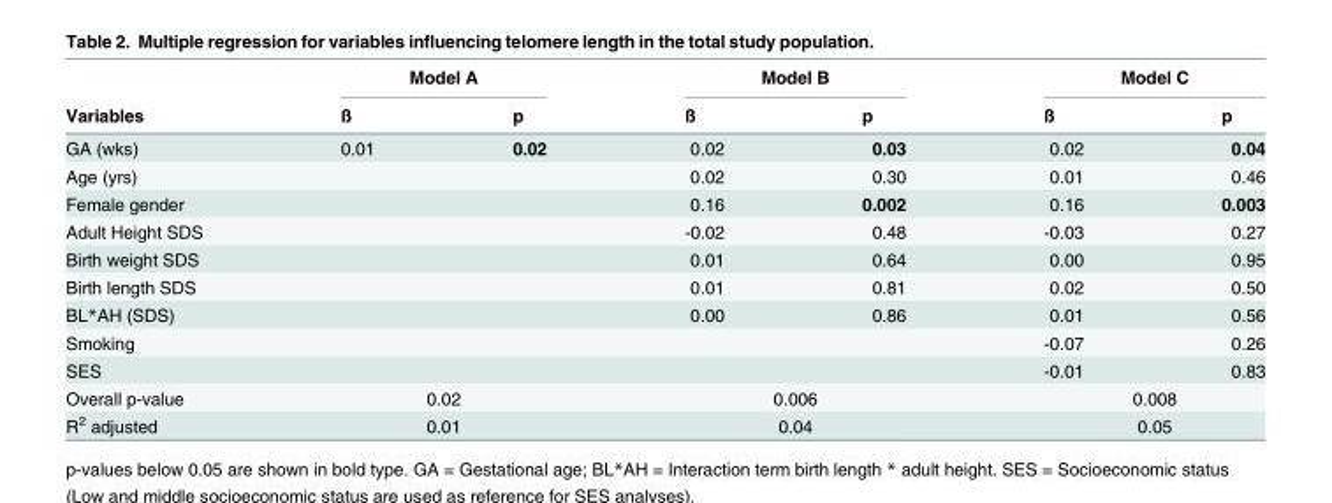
<table><thead><tr><td rowspan="2">Variables</td><td colspan="2">Model A</td><td colspan="2">Model B</td><td colspan="2">Model C</td></tr><tr><td>ß</td><td>p</td><td>ß</td><td>p</td><td>ß</td><td>p</td></tr></thead><tbody><tr><td>GA (wks)</td><td>0.01</td><td>0.02</td><td>0.02</td><td>0.03</td><td>0.02</td><td>0.04</td></tr><tr><td>Age (yrs)</td><td></td><td></td><td>0.02</td><td>0.30</td><td>0.01</td><td>0.46</td></tr><tr><td>Female gender</td><td></td><td></td><td>0.16</td><td>0.002</td><td>0.16</td><td>0.003</td></tr><tr><td>Adult Height SDS</td><td></td><td></td><td>-0.02</td><td>0.48</td><td>-0.03</td><td>0.27</td></tr><tr><td>Birth weight SDS</td><td></td><td></td><td>0.01</td><td>0.64</td><td>0.00</td><td>0.95</td></tr><tr><td>Birth length SDS</td><td></td><td></td><td>0.01</td><td>0.81</td><td>0.02</td><td>0.50</td></tr><tr><td>BL*AH (SDS)</td><td></td><td></td><td>0.00</td><td>0.86</td><td>0.01</td><td>0.56</td></tr><tr><td>Smoking</td><td></td><td></td><td></td><td></td><td>-0.07</td><td>0.26</td></tr><tr><td>SES</td><td></td><td></td><td></td><td></td><td>-0.01</td><td>0.83</td></tr><tr><td>Overall p-value</td><td colspan="2">0.02</td><td colspan="2">0.006</td><td colspan="2">0.008</td></tr><tr><td>R<sup>2</sup> adjusted</td><td colspan="2">0.01</td><td colspan="2">0.04</td><td colspan="2">0.05</td></tr></tbody></table>